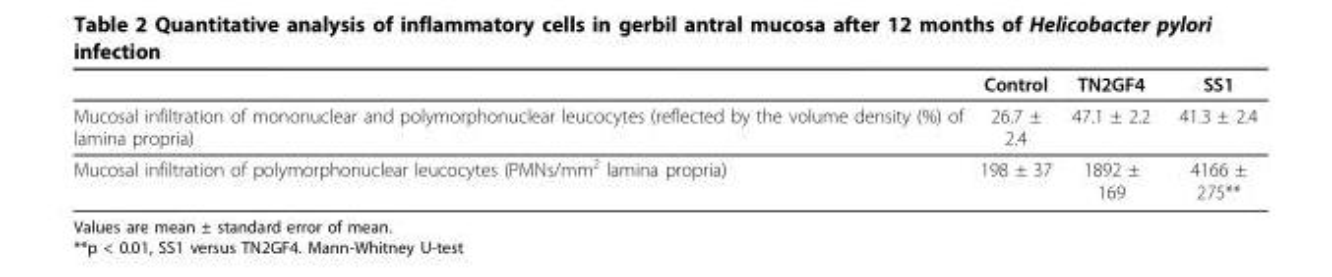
<table><thead><tr><td></td><td>Control</td><td>TN2GF4</td><td>SS1</td></tr></thead><tbody><tr><td>Mucosal infiltration of mononuclear and polymorphonuclear leucocytes (reflected by the volume density (%) of lamina propria)</td><td>26.7 ± 2.4</td><td>47.1 ± 2.2</td><td>41.3 ± 2.4</td></tr><tr><td>Mucosal infiltration of polymorphonuclear leucocytes (PMNs/mm<sup>2</sup> lamina propria)</td><td>198 ± 37</td><td>1892 ± 169</td><td>4166 ± 275**</td></tr></tbody></table>